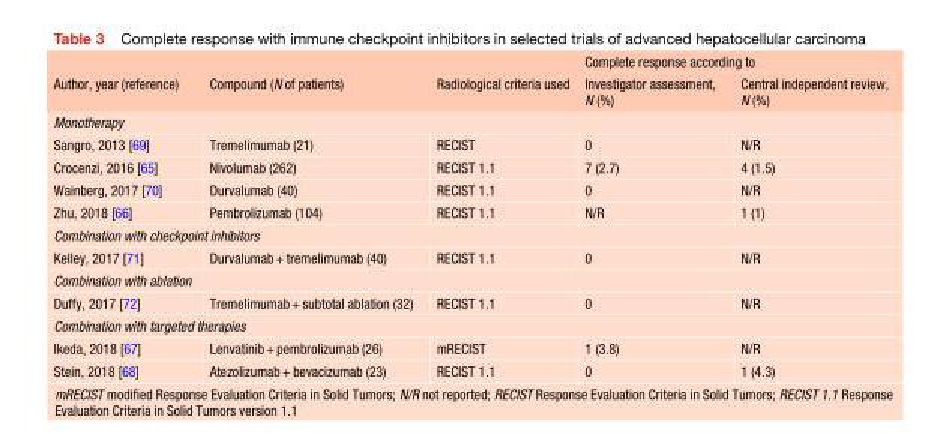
<table><thead><tr><td rowspan="2">Author, year (reference)</td><td rowspan="2">Compound (N of patients)</td><td rowspan="2">Radiological criteria used</td><td colspan="2">Complete response according to</td></tr><tr><td>Investigator assessment, N (%)</td><td>Central independent review, N (%)</td></tr></thead><tbody><tr><td colspan="5">Monotherapy</td></tr><tr><td>Sangro, 2013 [69]</td><td>Tremelimumab (21)</td><td>RECIST</td><td>0</td><td>N/R</td></tr><tr><td>Crocenzi, 2016 [65]</td><td>Nivolumab (262)</td><td>RECIST 1.1</td><td>7 (2.7)</td><td>4 (1.5)</td></tr><tr><td>Wainberg, 2017 [70]</td><td>Durvalumab (40)</td><td>RECIST 1.1</td><td>0</td><td>N/R</td></tr><tr><td>Zhu, 2018 [66]</td><td>Pembrolizumab (104)</td><td>RECIST 1.1</td><td>N/R</td><td>1 (1)</td></tr><tr><td colspan="5">Combination with checkpoint inhibitors</td></tr><tr><td>Kelley, 2017 [71]</td><td>Durvalumab+ tremelimumab (40)</td><td>RECIST 1.1</td><td>0</td><td>N/R</td></tr><tr><td colspan="5">Combination with ablation</td></tr><tr><td>Duffy, 2017 [72]</td><td>Tremelimumab+subtotal ablation (32)</td><td>RECIST 1.1</td><td>0</td><td>N/R</td></tr><tr><td colspan="5">Combination with targeted therapies</td></tr><tr><td>Ikeda, 2018 [67]</td><td>Lenvatinib+pembrolizumab (26)</td><td>mRECIST</td><td>1 (3.8)</td><td>N/R</td></tr><tr><td>Stein, 2018 [68]</td><td>Atezolizumab+ bevacizumab (23)</td><td>RECIST 1.1</td><td>0</td><td>1 (4.3)</td></tr></tbody></table>